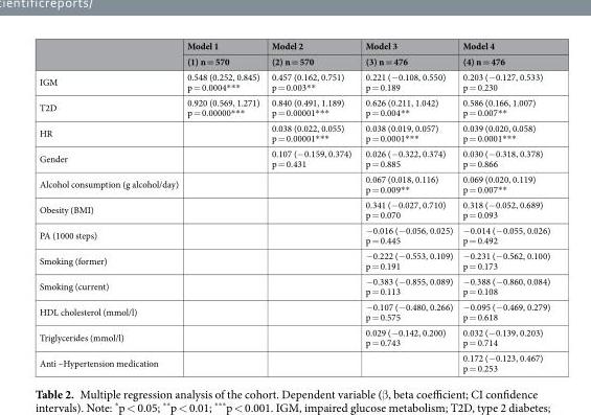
<table><thead><tr><td rowspan="2"></td><td rowspan="2">Model 1 (1) n = 570</td><td rowspan="2">Model 2 (2) n = 570</td><td rowspan="2">Model 3 (3) n = 476</td><td rowspan="2">Model 4 (4) n = 476</td></tr><tr></tr></thead><tbody><tr><td>IGM</td><td>0.548 (0.252, 0.845) p = 0.0004***</td><td>0.457 (0.162, 0.751) p = 0.003**</td><td>0.221 (−0.108, 0.550) p = 0.189</td><td>0.203 (−0.127, 0.533) p = 0.230</td></tr><tr><td>T2D</td><td>0.920 (0.569, 1.271) p = 0.00000***</td><td>0.840 (0.491, 1.189) p = 0.00001***</td><td>0.626 (0.211, 1.042) p = 0.004**</td><td>0.586 (0.166, 1.007) p = 0.007**</td></tr><tr><td>HR</td><td></td><td>0.038 (0.022, 0.055) p = 0.00001***</td><td>0.038 (0.019, 0.057) p = 0.0001***</td><td>0.039 (0.020, 0.058) p = 0.0001***</td></tr><tr><td>Gender</td><td></td><td>0.107 (−0.159, 0.374) p = 0.431</td><td>0.026 (−0.322, 0.374) p = 0.885</td><td>0.030 (−0.318, 0.378) p = 0.866</td></tr><tr><td>Alcohol consumption (g alcohol/day)</td><td></td><td></td><td>0.067 (0.018, 0.116) p = 0.009**</td><td>0.069 (0.020, 0.119) p = 0.007**</td></tr><tr><td>Obesity (BMI)</td><td></td><td></td><td>0.341 (−0.027, 0.710) p = 0.070</td><td>0.318 (−0.052, 0.689) p = 0.093</td></tr><tr><td>PA (1000 steps)</td><td></td><td></td><td>−0.016 (−0.056, 0.025) p = 0.445</td><td>−0.014 (−0.055, 0.026) p = 0.492</td></tr><tr><td>Smoking (former)</td><td></td><td></td><td>−0.222 (−0.553, 0.109) p = 0.191</td><td>−0.231 (−0.562, 0.100) p = 0.173</td></tr><tr><td>Smoking (current)</td><td></td><td></td><td>−0.383 (−0.855, 0.089) p = 0.113</td><td>−0.388 (−0.860, 0.084) p = 0.108</td></tr><tr><td>HDL cholesterol (mmol/l)</td><td></td><td></td><td>−0.107 (−0.480, 0.266) p = 0.575</td><td>−0.095 (−0.469, 0.279) p = 0.618</td></tr><tr><td>Triglycerides (mmol/l)</td><td></td><td></td><td>0.029 (−0.142, 0.200) p = 0.743</td><td>0.032 (−0.139, 0.203) p = 0.714</td></tr><tr><td>Anti –Hypertension medication</td><td></td><td></td><td></td><td>0.172 (−0.123, 0.467) p = 0.253</td></tr></tbody></table>